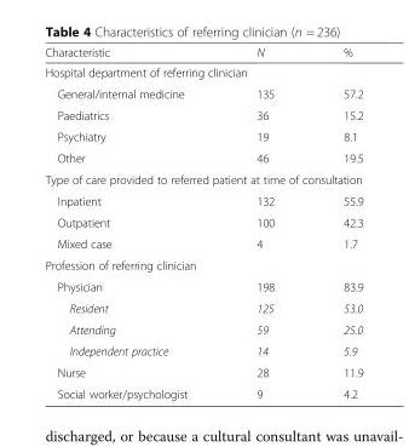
<table><thead><tr><td>Characteristic</td><td>N</td><td>%</td></tr></thead><tbody><tr><td colspan="3">Hospital department of referring clinician</td></tr><tr><td>General/internal medicine</td><td>135</td><td>57.2</td></tr><tr><td>Paediatrics</td><td>36</td><td>15.2</td></tr><tr><td>Psychiatry</td><td>19</td><td>8.1</td></tr><tr><td>Other</td><td>46</td><td>19.5</td></tr><tr><td colspan="3">Type of care provided to referred patient at time of consultation</td></tr><tr><td>Inpatient</td><td>132</td><td>55.9</td></tr><tr><td>Outpatient</td><td>100</td><td>42.3</td></tr><tr><td>Mixed case</td><td>4</td><td>1.7</td></tr><tr><td colspan="3">Profession of referring clinician</td></tr><tr><td>Physician</td><td>198</td><td>83.9</td></tr><tr><td>Resident</td><td>125</td><td>53.0</td></tr><tr><td>Attending</td><td>59</td><td>25.0</td></tr><tr><td>Independent practice</td><td>14</td><td>5.9</td></tr><tr><td>Nurse</td><td>28</td><td>11.9</td></tr><tr><td>Social worker/psychologist</td><td>9</td><td>4.2</td></tr></tbody></table>